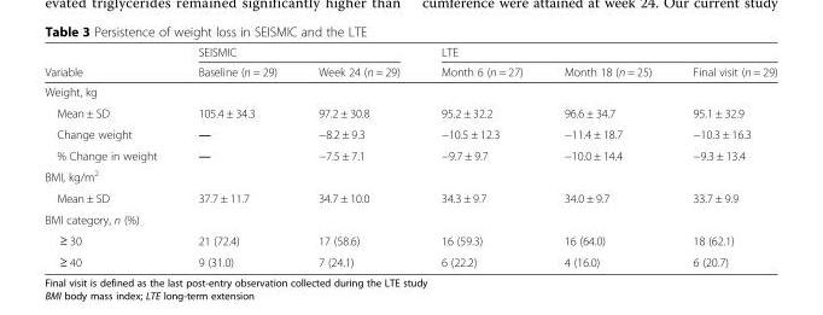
<table><thead><tr><td rowspan="2">Variable</td><td colspan="2">SEISMIC</td><td colspan="3">LTE</td></tr><tr><td>Baseline (n = 29)</td><td>Week 24 (n = 29)</td><td>Month 6 (n = 27)</td><td>Month 18 (n = 25)</td><td>Final visit (n = 29)</td></tr></thead><tbody><tr><td colspan="6">Weight, kg</td></tr><tr><td>Mean ± SD</td><td>105.4 ± 34.3</td><td>97.2 ± 30.8</td><td>95.2 ± 32.2</td><td>96.6 ± 34.7</td><td>95.1 ± 32.9</td></tr><tr><td>Change weight</td><td>—</td><td>−8.2 ± 9.3</td><td>−10.5 ± 12.3</td><td>−11.4 ± 18.7</td><td>−10.3 ± 16.3</td></tr><tr><td>% Change in weight</td><td>—</td><td>−7.5 ± 7.1</td><td>−9.7 ± 9.7</td><td>−10.0 ± 14.4</td><td>−9.3 ± 13.4</td></tr><tr><td colspan="6">BMI, kg/m<sup>2</sup></td></tr><tr><td>Mean ± SD</td><td>37.7 ± 11.7</td><td>34.7 ± 10.0</td><td>34.3 ± 9.7</td><td>34.0 ± 9.7</td><td>33.7 ± 9.9</td></tr><tr><td colspan="6">BMI category, n (%)</td></tr><tr><td>≥ 30</td><td>21 (72.4)</td><td>17 (58.6)</td><td>16 (59.3)</td><td>16 (64.0)</td><td>18 (62.1)</td></tr><tr><td>≥ 40</td><td>9 (31.0)</td><td>7 (24.1)</td><td>6 (22.2)</td><td>4 (16.0)</td><td>6 (20.7)</td></tr></tbody></table>